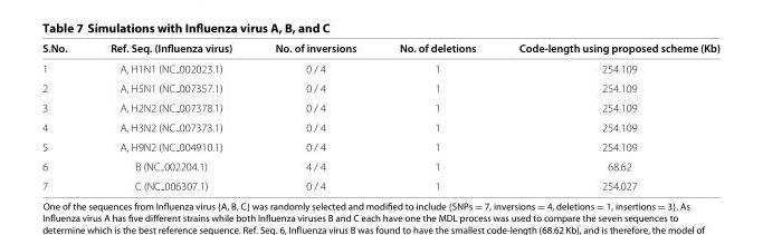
<table><thead><tr><td>S.No.</td><td>Ref. Seq. (Influenza virus)</td><td>No. of inversions</td><td>No. of deletions</td><td>Code-length using proposed scheme (Kb)</td></tr></thead><tbody><tr><td>1</td><td>A, H1N1 (NC 002023.1)</td><td>0 / 4</td><td>1</td><td>254.109</td></tr><tr><td>2</td><td>A, H5N1 (NC 007357.1)</td><td>0 / 4</td><td>1</td><td>254.109</td></tr><tr><td>3</td><td>A, H2N2 (NC 007378.1)</td><td>0 / 4</td><td>1</td><td>254.109</td></tr><tr><td>4</td><td>A, H3N2 (NC 007373.1)</td><td>0 / 4</td><td>1</td><td>254.109</td></tr><tr><td>5</td><td>A, H9N2 (NC 004910.1)</td><td>0 / 4</td><td>1</td><td>254.109</td></tr><tr><td>6</td><td>B (NC 002204.1)</td><td>4 / 4</td><td>1</td><td>68.62</td></tr><tr><td>7</td><td>C (NC 006307.1)</td><td>0 / 4</td><td>1</td><td>254.027</td></tr></tbody></table>